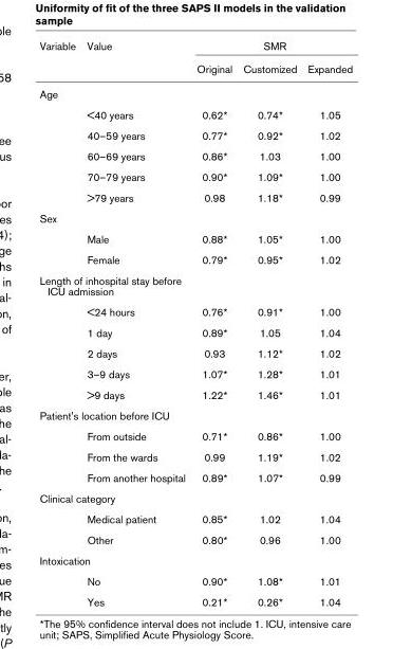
<table><thead><tr><td rowspan="2">Variable</td><td rowspan="2">Value</td><td colspan="3">SMR</td></tr><tr><td>Original</td><td>Customized</td><td>Expanded</td></tr></thead><tbody><tr><td colspan="5">Age</td></tr><tr><td></td><td>&lt;40 years</td><td>0.62*</td><td>0.74*</td><td>1.05</td></tr><tr><td></td><td>40–59 years</td><td>0.77*</td><td>0.92*</td><td>1.02</td></tr><tr><td></td><td>60–69 years</td><td>0.86*</td><td>1.03</td><td>1.00</td></tr><tr><td></td><td>70–79 years</td><td>0.90*</td><td>1.09*</td><td>1.00</td></tr><tr><td></td><td>&gt;79 years</td><td>0.98</td><td>1.18*</td><td>0.99</td></tr><tr><td colspan="5">Sex</td></tr><tr><td></td><td>Male</td><td>0.88*</td><td>1.05*</td><td>1.00</td></tr><tr><td></td><td>Female</td><td>0.79*</td><td>0.95*</td><td>1.02</td></tr><tr><td colspan="5">Length of inhospital stay before ICU admission</td></tr><tr><td></td><td>&lt;24 hours</td><td>0.76*</td><td>0.91*</td><td>1.00</td></tr><tr><td></td><td>1 day</td><td>0.89*</td><td>1.05</td><td>1.04</td></tr><tr><td></td><td>2 days</td><td>0.93</td><td>1.12*</td><td>1.02</td></tr><tr><td></td><td>3–9 days</td><td>1.07*</td><td>1.28*</td><td>1.01</td></tr><tr><td></td><td>&gt;9 days</td><td>1.22*</td><td>1.46*</td><td>1.01</td></tr><tr><td colspan="5">Patient&#x27;s location before ICU</td></tr><tr><td></td><td>From outside</td><td>0.71*</td><td>0.86*</td><td>1.00</td></tr><tr><td></td><td>From the wards</td><td>0.99</td><td>1.19*</td><td>1.02</td></tr><tr><td></td><td>From another hospital</td><td>0.89*</td><td>1.07*</td><td>0.99</td></tr><tr><td colspan="5">Clinical category</td></tr><tr><td></td><td>Medical patient</td><td>0.85*</td><td>1.02</td><td>1.04</td></tr><tr><td></td><td>Other</td><td>0.80*</td><td>0.96</td><td>1.00</td></tr><tr><td colspan="5">Intoxication</td></tr><tr><td></td><td>No</td><td>0.90*</td><td>1.08*</td><td>1.01</td></tr><tr><td></td><td>Yes</td><td>0.21*</td><td>0.26*</td><td>1.04</td></tr></tbody></table>